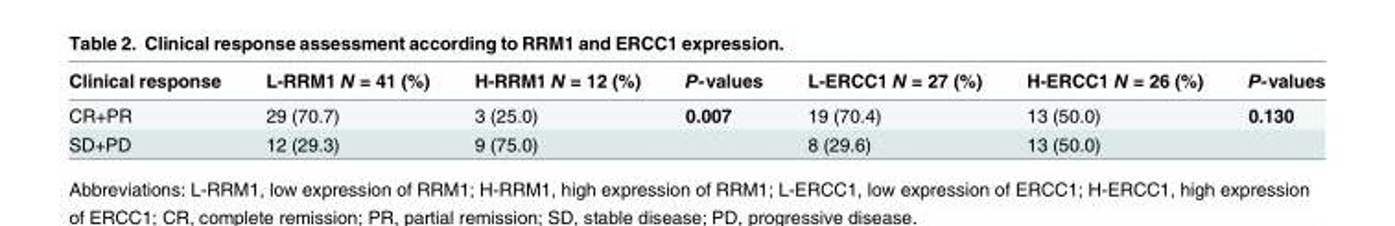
<table><thead><tr><td>Clinical response</td><td>L-RRM1 N = 41 (%)</td><td>H-RRM1 N = 12 (%)</td><td>P-values</td><td>L-ERCC1 N = 27 (%)</td><td>H-ERCC1 N = 26 (%)</td><td>P-values</td></tr></thead><tbody><tr><td>CR+PR</td><td>29 (70.7)</td><td>3 (25.0)</td><td>0.007</td><td>19 (70.4)</td><td>13 (50.0)</td><td>0.130</td></tr><tr><td>SD+PD</td><td>12 (29.3)</td><td>9 (75.0)</td><td></td><td>8 (29.6)</td><td>13 (50.0)</td><td></td></tr></tbody></table>